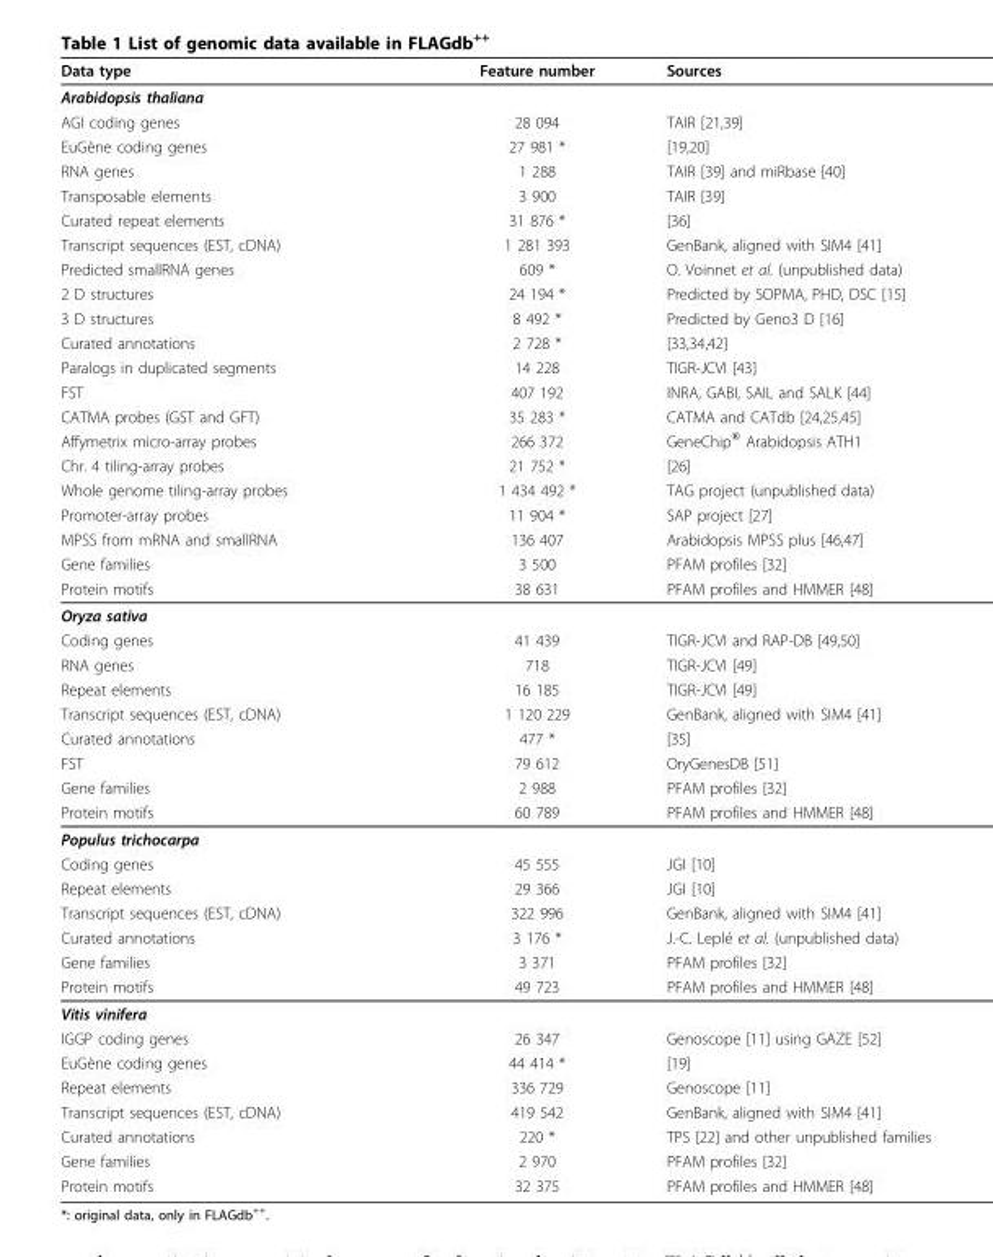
<table><thead><tr><td>Data type</td><td>Feature number</td><td>Sources</td></tr></thead><tbody><tr><td colspan="3">Arabidopsis thaliana</td></tr><tr><td>AGI coding genes</td><td>28 094</td><td>TAIR [21,39]</td></tr><tr><td>EuGène coding genes</td><td>27 981 *</td><td>[19,20]</td></tr><tr><td>RNA genes</td><td>1 288</td><td>TAIR [39] and miRbase [40]</td></tr><tr><td>Transposable elements</td><td>3 900</td><td>TAIR [39]</td></tr><tr><td>Curated repeat elements</td><td>31 876 *</td><td>[36]</td></tr><tr><td>Transcript sequences (EST, cDNA)</td><td>1 281 393</td><td>GenBank, aligned with SIM4 [41]</td></tr><tr><td>Predicted smallRNA genes</td><td>609 *</td><td>O. Voinnet et al. (unpublished data)</td></tr><tr><td>2 D structures</td><td>24 194 *</td><td>Predicted by SOPMA, PHD, DSC [15]</td></tr><tr><td>3 D structures</td><td>8 492 *</td><td>Predicted by Geno3 D [16]</td></tr><tr><td>Curated annotations</td><td>2 728 *</td><td>[33,34,42]</td></tr><tr><td>Paralogs in duplicated segments</td><td>14 228</td><td>TIGR-JCVI [43]</td></tr><tr><td>FST</td><td>407 192</td><td>INRA, GABI, SAIL and SALK [44]</td></tr><tr><td>CATMA probes (GST and GFT)</td><td>35 283 *</td><td>CATMA and CATdb [24,25,45]</td></tr><tr><td>Affymetrix micro-array probes</td><td>266 372</td><td>GeneChip<sup>®</sup> Arabidopsis ATH1</td></tr><tr><td>Chr. 4 tiling-array probes</td><td>21 752 *</td><td>[26]</td></tr><tr><td>Whole genome tiling-array probes</td><td>1 434 492 *</td><td>TAG project (unpublished data)</td></tr><tr><td>Promoter-array probes</td><td>11 904 *</td><td>SAP project [27]</td></tr><tr><td>MPSS from mRNA and smallRNA</td><td>136 407</td><td>Arabidopsis MPSS plus [46,47]</td></tr><tr><td>Gene families</td><td>3 500</td><td>PFAM profiles [32]</td></tr><tr><td>Protein motifs</td><td>38 631</td><td>PFAM profiles and HMMER [48]</td></tr><tr><td colspan="3">Oryza sativa</td></tr><tr><td>Coding genes</td><td>41 439</td><td>TIGR-JCVI and RAP-DB [49,50]</td></tr><tr><td>RNA genes</td><td>718</td><td>TIGR-JCVI [49]</td></tr><tr><td>Repeat elements</td><td>16 185</td><td>TIGR-JCVI [49]</td></tr><tr><td>Transcript sequences (EST, cDNA)</td><td>1 120 229</td><td>GenBank, aligned with SIM4 [41]</td></tr><tr><td>Curated annotations</td><td>477 *</td><td>[35]</td></tr><tr><td>FST</td><td>79 612</td><td>OryGenesDB [51]</td></tr><tr><td>Gene families</td><td>2 988</td><td>PFAM profiles [32]</td></tr><tr><td>Protein motifs</td><td>60 789</td><td>PFAM profiles and HMMER [48]</td></tr><tr><td colspan="3">Populus trichocarpa</td></tr><tr><td>Coding genes</td><td>45 555</td><td>JGI [10]</td></tr><tr><td>Repeat elements</td><td>29 366</td><td>JGI [10]</td></tr><tr><td>Transcript sequences (EST, cDNA)</td><td>322 996</td><td>GenBank, aligned with SIM4 [41]</td></tr><tr><td>Curated annotations</td><td>3 176 *</td><td>J.-C. Leplé et al. (unpublished data)</td></tr><tr><td>Gene families</td><td>3 371</td><td>PFAM profiles [32]</td></tr><tr><td>Protein motifs</td><td>49 723</td><td>PFAM profiles and HMMER [48]</td></tr><tr><td colspan="3">Vitis vinifera</td></tr><tr><td>IGGP coding genes</td><td>26 347</td><td>Genoscope [11] using GAZE [52]</td></tr><tr><td>EuGène coding genes</td><td>44 414 *</td><td>[19]</td></tr><tr><td>Repeat elements</td><td>336 729</td><td>Genoscope [11]</td></tr><tr><td>Transcript sequences (EST, cDNA)</td><td>419 542</td><td>GenBank, aligned with SIM4 [41]</td></tr><tr><td>Curated annotations</td><td>220 *</td><td>TPS [22] and other unpublished families</td></tr><tr><td>Gene families</td><td>2 970</td><td>PFAM profiles [32]</td></tr><tr><td>Protein motifs</td><td>32 375</td><td>PFAM profiles and HMMER [48]</td></tr></tbody></table>